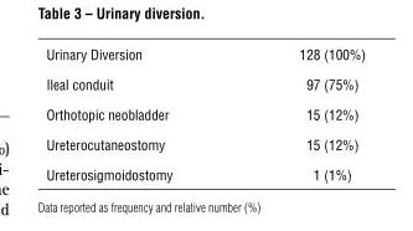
<table><thead><tr><td>Urinary Diversion</td><td>128 (100%)</td></tr></thead><tbody><tr><td>Ileal conduit</td><td>97 (75%)</td></tr><tr><td>Orthotopic neobladder</td><td>15 (12%)</td></tr><tr><td>Ureterocutaneostomy</td><td>15 (12%)</td></tr><tr><td>Ureterosigmoidostomy</td><td>1 (1%)</td></tr></tbody></table>